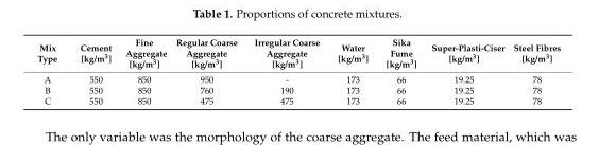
<table><thead><tr><td>Mix Type</td><td>Cement [kg/m<sup>3</sup>]</td><td>Fine Aggregate [kg/m<sup>3</sup>]</td><td>Regular Coarse Aggregate [kg/m<sup>3</sup>]</td><td>Irregular Coarse Aggregate [kg/m<sup>3</sup>]</td><td>Water [kg/m<sup>3</sup>]</td><td>Sika Fume [kg/m<sup>3</sup>]</td><td>Super-Plasti-Ciser [kg/m<sup>3</sup>]</td><td>Steel Fibres [kg/m<sup>3</sup>]</td></tr></thead><tbody><tr><td>A</td><td>550</td><td>850</td><td>950</td><td>-</td><td>173</td><td>66</td><td>19.25</td><td>78</td></tr><tr><td>B</td><td>550</td><td>850</td><td>760</td><td>190</td><td>173</td><td>66</td><td>19.25</td><td>78</td></tr><tr><td>C</td><td>550</td><td>850</td><td>475</td><td>475</td><td>173</td><td>66</td><td>19.25</td><td>78</td></tr></tbody></table>